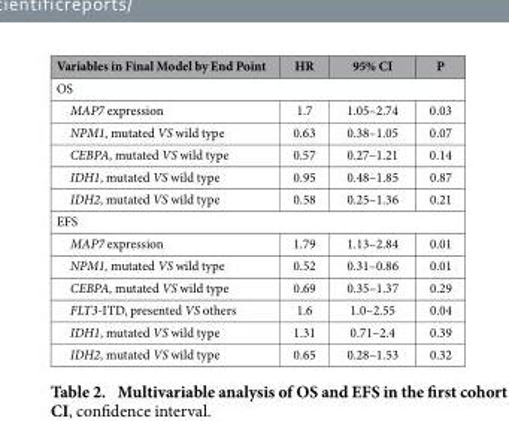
<table><thead><tr><td>Variables in Final Model by End Point</td><td>HR</td><td>95% CI</td><td>P</td></tr></thead><tbody><tr><td colspan="4">OS</td></tr><tr><td>MAP7 expression</td><td>1.7</td><td>1.05–2.74</td><td>0.03</td></tr><tr><td>NPM1, mutated VS wild type</td><td>0.63</td><td>0.38–1.05</td><td>0.07</td></tr><tr><td>CEBPA, mutated VS wild type</td><td>0.57</td><td>0.27–1.21</td><td>0.14</td></tr><tr><td>IDH1, mutated VS wild type</td><td>0.95</td><td>0.48–1.85</td><td>0.87</td></tr><tr><td>IDH2, mutated VS wild type</td><td>0.58</td><td>0.25–1.36</td><td>0.21</td></tr><tr><td colspan="4">EFS</td></tr><tr><td>MAP7 expression</td><td>1.79</td><td>1.13–2.84</td><td>0.01</td></tr><tr><td>NPM1, mutated VS wild type</td><td>0.52</td><td>0.31–0.86</td><td>0.01</td></tr><tr><td>CEBPA, mutated VS wild type</td><td>0.69</td><td>0.35–1.37</td><td>0.29</td></tr><tr><td>FLT3-ITD, presented VS others</td><td>1.6</td><td>1.0–2.55</td><td>0.04</td></tr><tr><td>IDH1, mutated VS wild type</td><td>1.31</td><td>0.71–2.4</td><td>0.39</td></tr><tr><td>IDH2, mutated VS wild type</td><td>0.65</td><td>0.28–1.53</td><td>0.32</td></tr></tbody></table>